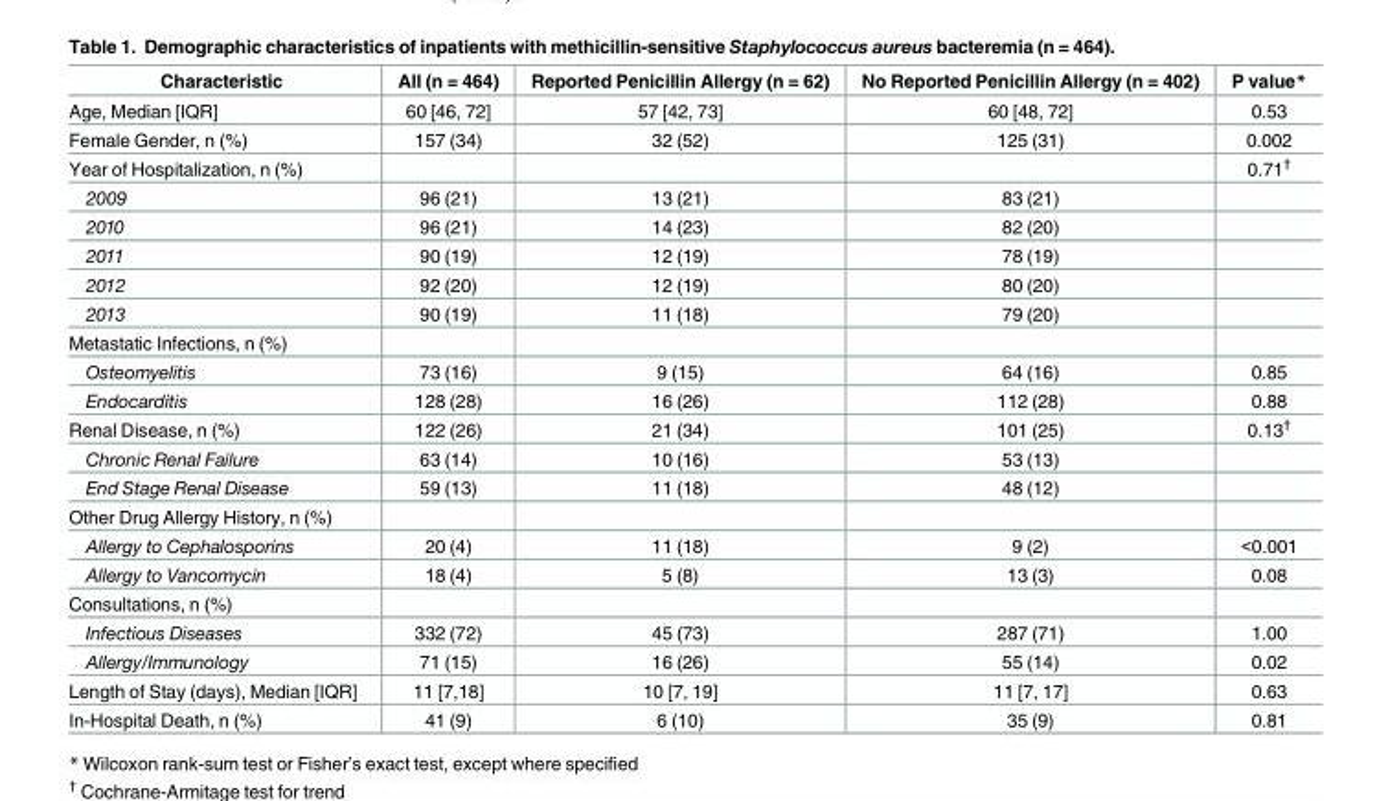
<table><thead><tr><td>Characteristic</td><td>All (n = 464)</td><td>Reported Penicillin Allergy (n = 62)</td><td>No Reported Penicillin Allergy (n = 402)</td><td>P value*</td></tr></thead><tbody><tr><td>Age, Median [IQR]</td><td>60 [46, 72]</td><td>57 [42, 73]</td><td>60 [48, 72]</td><td>0.53</td></tr><tr><td>Female Gender, n (%)</td><td>157 (34)</td><td>32 (52)</td><td>125 (31)</td><td>0.002</td></tr><tr><td>Year of Hospitalization, n (%)</td><td></td><td></td><td></td><td>0.71<sup>†</sup></td></tr><tr><td>2009</td><td>96 (21)</td><td>13 (21)</td><td>83 (21)</td><td></td></tr><tr><td>2010</td><td>96 (21)</td><td>14 (23)</td><td>82 (20)</td><td></td></tr><tr><td>2011</td><td>90 (19)</td><td>12 (19)</td><td>78 (19)</td><td></td></tr><tr><td>2012</td><td>92 (20)</td><td>12 (19)</td><td>80 (20)</td><td></td></tr><tr><td>2013</td><td>90 (19)</td><td>11 (18)</td><td>79 (20)</td><td></td></tr><tr><td colspan="5">Metastatic Infections, n (%)</td></tr><tr><td>Osteomyelitis</td><td>73 (16)</td><td>9 (15)</td><td>64 (16)</td><td>0.85</td></tr><tr><td>Endocarditis</td><td>128 (28)</td><td>16 (26)</td><td>112 (28)</td><td>0.88</td></tr><tr><td>Renal Disease, n (%)</td><td>122 (26)</td><td>21 (34)</td><td>101 (25)</td><td>0.13<sup>†</sup></td></tr><tr><td>Chronic Renal Failure</td><td>63 (14)</td><td>10 (16)</td><td>53 (13)</td><td></td></tr><tr><td>End Stage Renal Disease</td><td>59 (13)</td><td>11 (18)</td><td>48 (12)</td><td></td></tr><tr><td colspan="5">Other Drug Allergy History, n (%)</td></tr><tr><td>Allergy to Cephalosporins</td><td>20 (4)</td><td>11 (18)</td><td>9 (2)</td><td>&lt;0.001</td></tr><tr><td>Allergy to Vancomycin</td><td>18 (4)</td><td>5 (8)</td><td>13 (3)</td><td>0.08</td></tr><tr><td colspan="5">Consultations, n (%)</td></tr><tr><td>Infectious Diseases</td><td>332 (72)</td><td>45 (73)</td><td>287 (71)</td><td>1.00</td></tr><tr><td>Allergy/Immunology</td><td>71 (15)</td><td>16 (26)</td><td>55 (14)</td><td>0.02</td></tr><tr><td>Length of Stay (days), Median [IQR]</td><td>11 [7,18]</td><td>10 [7, 19]</td><td>11 [7, 17]</td><td>0.63</td></tr><tr><td>In-Hospital Death, n (%)</td><td>41 (9)</td><td>6 (10)</td><td>35 (9)</td><td>0.81</td></tr></tbody></table>